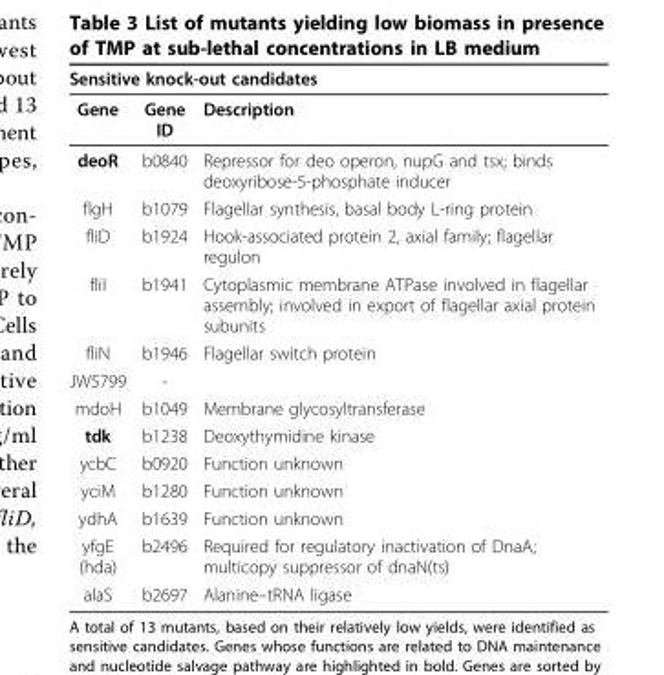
<table><thead><tr><td colspan="3">Sensitive knock-out candidates</td></tr><tr><td>Gene</td><td>Gene ID</td><td>Description</td></tr></thead><tbody><tr><td>deoR</td><td>b0840</td><td>Repressor for deo operon, nupG and tsx; binds deoxyribose-5-phosphate inducer</td></tr><tr><td>flgH</td><td>b1079</td><td>Flagellar synthesis, basal body L-ring protein</td></tr><tr><td>fliD</td><td>b1924</td><td>Hook-associated protein 2, axial family; flagellar regulon</td></tr><tr><td>fliI</td><td>b1941</td><td>Cytoplasmic membrane ATPase involved in flagellar assembly; involved in export of flagellar axial protein subunits</td></tr><tr><td>fliN</td><td>b1946</td><td>Flagellar switch protein</td></tr><tr><td>JW5799</td><td>-</td><td></td></tr><tr><td>mdoH</td><td>b1049</td><td>Membrane glycosyltransferase</td></tr><tr><td>tdk</td><td>b1238</td><td>Deoxythymidine kinase</td></tr><tr><td>ycbC</td><td>b0920</td><td>Function unknown</td></tr><tr><td>yciM</td><td>b1280</td><td>Function unknown</td></tr><tr><td>ydhA</td><td>b1639</td><td>Function unknown</td></tr><tr><td>yfgE (hda)</td><td>b2496</td><td>Required for regulatory inactivation of DnaA; multicopy suppressor of dnaN(ts)</td></tr><tr><td>alaS</td><td>b2697</td><td>Alanine–tRNA ligase</td></tr></tbody></table>